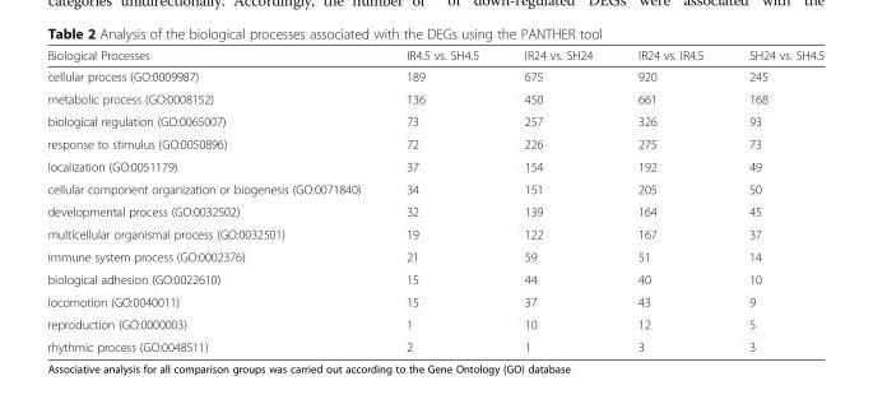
<table><thead><tr><td>Biological Processes</td><td>IR4.5 vs. SH4.5</td><td>IR24 vs. SH24</td><td>IR24 vs. IR4.5</td><td>SH24 vs. SH4.5</td></tr></thead><tbody><tr><td>cellular process (GO:0009987)</td><td>189</td><td>675</td><td>920</td><td>245</td></tr><tr><td>metabolic process (GO:0008152)</td><td>136</td><td>450</td><td>661</td><td>168</td></tr><tr><td>biological regulation (GO:0065007)</td><td>73</td><td>257</td><td>326</td><td>93</td></tr><tr><td>response to stimulus (GO:0050896)</td><td>72</td><td>226</td><td>275</td><td>73</td></tr><tr><td>localization (GO:0051179)</td><td>37</td><td>154</td><td>192</td><td>49</td></tr><tr><td>cellular component organization or biogenesis (GO:0071840)</td><td>34</td><td>151</td><td>205</td><td>50</td></tr><tr><td>developmental process (GO:0032502)</td><td>32</td><td>139</td><td>164</td><td>45</td></tr><tr><td>multicellular organismal process (GO:0032501)</td><td>19</td><td>122</td><td>167</td><td>37</td></tr><tr><td>immune system process (GO:0002376)</td><td>21</td><td>59</td><td>51</td><td>14</td></tr><tr><td>biological adhesion (GO:0022610)</td><td>15</td><td>44</td><td>40</td><td>10</td></tr><tr><td>locomotion (GO:0040011)</td><td>15</td><td>37</td><td>43</td><td>9</td></tr><tr><td>reproduction (GO:0000003)</td><td>1</td><td>10</td><td>12</td><td>5</td></tr><tr><td>rhythmic process (GO:0048511)</td><td>2</td><td>1</td><td>3</td><td>3</td></tr></tbody></table>